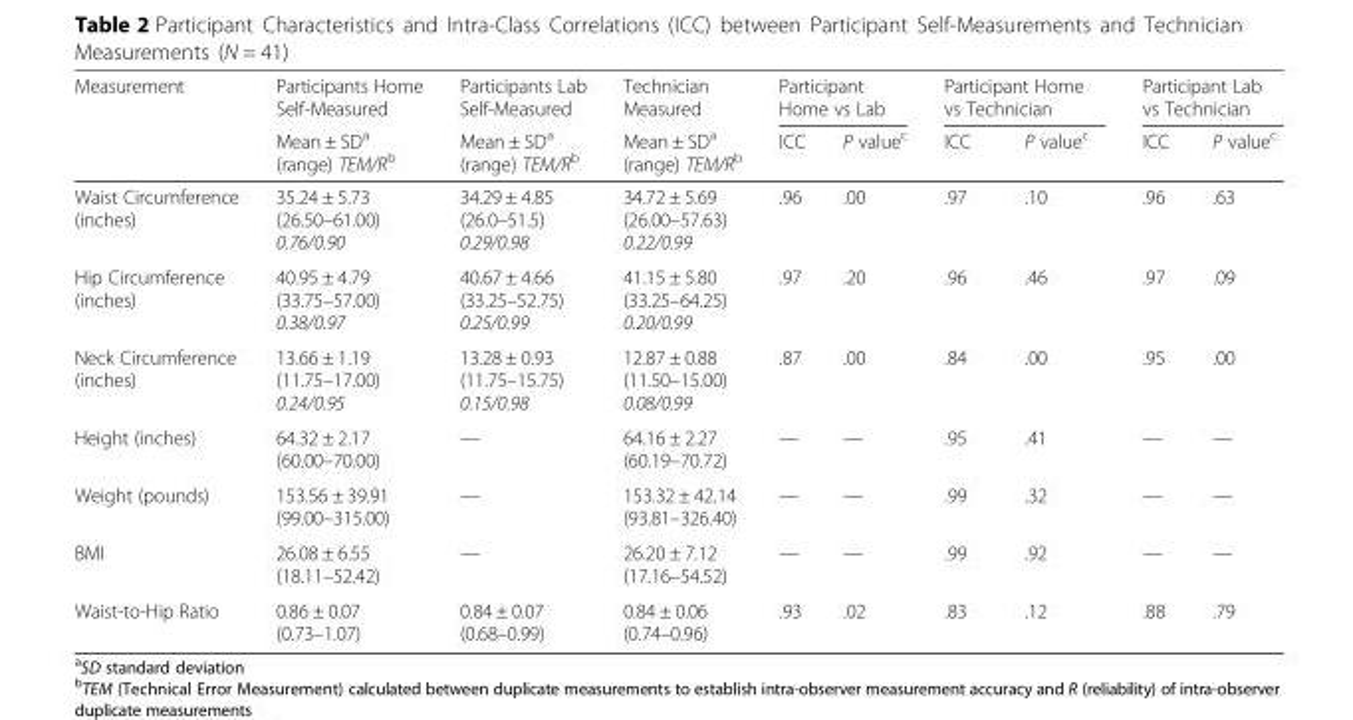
<table><thead><tr><td rowspan="2">Measurement</td><td rowspan="2">Participants Home Self-Measured Mean ± SD<sup>a</sup> (range) TEM/R<sup>b</sup></td><td rowspan="2">Participants Lab Self-Measured Mean ± SD<sup>a</sup> (range) TEM/R<sup>b</sup></td><td rowspan="2">Technician Measured Mean ± SD<sup>a</sup> (range) TEM/R<sup>b</sup></td><td colspan="2">Participant Home vs Lab</td><td colspan="2">Participant Home vs Technician</td><td colspan="2">Participant Lab vs Technician</td></tr><tr><td>ICC</td><td>P value<sup>c</sup></td><td>ICC</td><td>P value<sup>c</sup></td><td>ICC</td><td>P value<sup>c</sup></td></tr></thead><tbody><tr><td>Waist Circumference (inches)</td><td>35.24 ± 5.73 (26.50–61.00) 0.76/0.90</td><td>34.29 ± 4.85 (26.0–51.5) 0.29/0.98</td><td>34.72 ± 5.69 (26.00–57.63) 0.22/0.99</td><td>.96</td><td>.00</td><td>.97</td><td>.10</td><td>.96</td><td>.63</td></tr><tr><td>Hip Circumference (inches)</td><td>40.95 ± 4.79 (33.75–57.00) 0.38/0.97</td><td>40.67 ± 4.66 (33.25–52.75) 0.25/0.99</td><td>41.15 ± 5.80 (33.25–64.25) 0.20/0.99</td><td>.97</td><td>.20</td><td>.96</td><td>.46</td><td>.97</td><td>.09</td></tr><tr><td>Neck Circumference (inches)</td><td>13.66 ± 1.19 (11.75–17.00) 0.24/0.95</td><td>13.28 ± 0.93 (11.75–15.75) 0.15/0.98</td><td>12.87 ± 0.88 (11.50–15.00) 0.08/0.99</td><td>.87</td><td>.00</td><td>.84</td><td>.00</td><td>.95</td><td>.00</td></tr><tr><td>Height (inches)</td><td>64.32 ± 2.17 (60.00–70.00)</td><td>—</td><td>64.16 ± 2.27 (60.19–70.72)</td><td>—</td><td>—</td><td>.95</td><td>.41</td><td>—</td><td>—</td></tr><tr><td>Weight (pounds)</td><td>153.56 ± 39.91 (99.00–315.00)</td><td>—</td><td>153.32 ± 42.14 (93.81–326.40)</td><td>—</td><td>—</td><td>.99</td><td>.32</td><td>—</td><td>—</td></tr><tr><td>BMI</td><td>26.08 ± 6.55 (18.11–52.42)</td><td>—</td><td>26.20 ± 7.12 (17.16–54.52)</td><td>—</td><td>—</td><td>.99</td><td>.92</td><td>—</td><td>—</td></tr><tr><td>Waist-to-Hip Ratio</td><td>0.86 ± 0.07 (0.73–1.07)</td><td>0.84 ± 0.07 (0.68–0.99)</td><td>0.84 ± 0.06 (0.74–0.96)</td><td>.93</td><td>.02</td><td>.83</td><td>.12</td><td>.88</td><td>.79</td></tr></tbody></table>